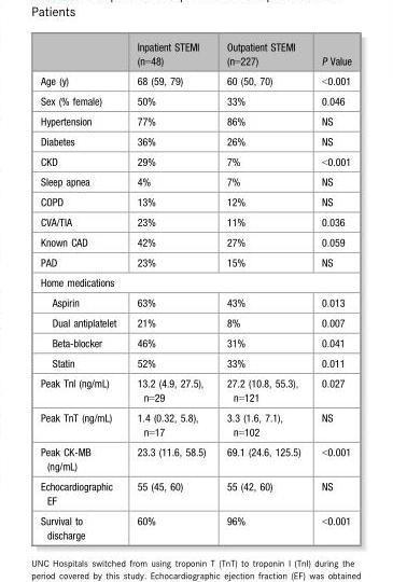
<table><thead><tr><td></td><td>Inpatient STEMI (n=48)</td><td>Outpatient STEMI (n=227)</td><td>P Value</td></tr></thead><tbody><tr><td>Age (y)</td><td>68 (59, 79)</td><td>60 (50, 70)</td><td>&lt;0.001</td></tr><tr><td>Sex (% female)</td><td>50%</td><td>33%</td><td>0.046</td></tr><tr><td>Hypertension</td><td>77%</td><td>86%</td><td>NS</td></tr><tr><td>Diabetes</td><td>36%</td><td>26%</td><td>NS</td></tr><tr><td>CKD</td><td>29%</td><td>7%</td><td>&lt;0.001</td></tr><tr><td>Sleep apnea</td><td>4%</td><td>7%</td><td>NS</td></tr><tr><td>COPD</td><td>13%</td><td>12%</td><td>NS</td></tr><tr><td>CVA/TIA</td><td>23%</td><td>11%</td><td>0.036</td></tr><tr><td>Known CAD</td><td>42%</td><td>27%</td><td>0.059</td></tr><tr><td>PAD</td><td>23%</td><td>15%</td><td>NS</td></tr><tr><td colspan="4">Home medications</td></tr><tr><td>Aspirin</td><td>63%</td><td>43%</td><td>0.013</td></tr><tr><td>Dual antiplatelet</td><td>21%</td><td>8%</td><td>0.007</td></tr><tr><td>Beta-blocker</td><td>46%</td><td>31%</td><td>0.041</td></tr><tr><td>Statin</td><td>52%</td><td>33%</td><td>0.011</td></tr><tr><td>Peak TnI (ng/mL)</td><td>13.2 (4.9, 27.5), n=29</td><td>27.2 (10.8, 55.3), n=121</td><td>0.027</td></tr><tr><td>Peak TnT (ng/mL)</td><td>1.4 (0.32, 5.8), n=17</td><td>3.3 (1.6, 7.1), n=102</td><td>NS</td></tr><tr><td>Peak CK-MB (ng/mL)</td><td>23.3 (11.6, 58.5)</td><td>69.1 (24.6, 125.5)</td><td>&lt;0.001</td></tr><tr><td>Echocardiographic EF</td><td>55 (45, 60)</td><td>55 (42, 60)</td><td>NS</td></tr><tr><td>Survival to discharge</td><td>60%</td><td>96%</td><td>&lt;0.001</td></tr></tbody></table>